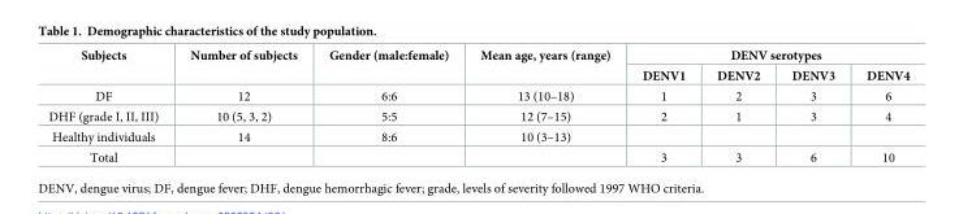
<table><thead><tr><td rowspan="2">Subjects</td><td rowspan="2">Number of subjects</td><td rowspan="2">Gender (male:female)</td><td rowspan="2">Mean age, years (range)</td><td colspan="4">DENV serotypes</td></tr><tr><td>DENV1</td><td>DENV2</td><td>DENV3</td><td>DENV4</td></tr></thead><tbody><tr><td>DF</td><td>12</td><td>6:6</td><td>13 (10–18)</td><td>1</td><td>2</td><td>3</td><td>6</td></tr><tr><td>DHF (grade I, II, III)</td><td>10 (5, 3, 2)</td><td>5:5</td><td>12 (7–15)</td><td>2</td><td>1</td><td>3</td><td>4</td></tr><tr><td>Healthy individuals</td><td>14</td><td>8:6</td><td>10 (3–13)</td><td></td><td></td><td></td><td></td></tr><tr><td>Total</td><td></td><td></td><td></td><td>3</td><td>3</td><td>6</td><td>10</td></tr></tbody></table>